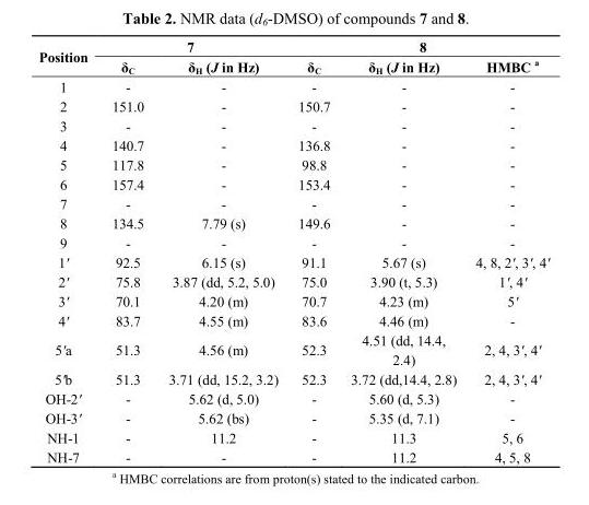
<table><thead><tr><td rowspan="2">Position</td><td colspan="2">7</td><td colspan="3">8</td></tr><tr><td>δ<sub>C</sub></td><td>δ<sub>H</sub> (J in Hz)</td><td>δ<sub>C</sub></td><td>δ<sub>H</sub> (J in Hz)</td><td>HMBC <sup>a</sup></td></tr></thead><tbody><tr><td>1</td><td>-</td><td>-</td><td>-</td><td>-</td><td>-</td></tr><tr><td>2</td><td>151.0</td><td>-</td><td>150.7</td><td>-</td><td>-</td></tr><tr><td>3</td><td>-</td><td>-</td><td>-</td><td>-</td><td>-</td></tr><tr><td>4</td><td>140.7</td><td>-</td><td>136.8</td><td>-</td><td>-</td></tr><tr><td>5</td><td>117.8</td><td>-</td><td>98.8</td><td>-</td><td>-</td></tr><tr><td>6</td><td>157.4</td><td>-</td><td>153.4</td><td>-</td><td>-</td></tr><tr><td>7</td><td>-</td><td>-</td><td>-</td><td>-</td><td>-</td></tr><tr><td>8</td><td>134.5</td><td>7.79 (s)</td><td>149.6</td><td>-</td><td>-</td></tr><tr><td>9</td><td>-</td><td>-</td><td>-</td><td>-</td><td>-</td></tr><tr><td>1′</td><td>92.5</td><td>6.15 (s)</td><td>91.1</td><td>5.67 (s)</td><td>4, 8, 2′, 3′, 4′</td></tr><tr><td>2′</td><td>75.8</td><td>3.87 (dd, 5.2, 5.0)</td><td>75.0</td><td>3.90 (t, 5.3)</td><td>1′, 4′</td></tr><tr><td>3′</td><td>70.1</td><td>4.20 (m)</td><td>70.7</td><td>4.23 (m)</td><td>5′</td></tr><tr><td>4′</td><td>83.7</td><td>4.55 (m)</td><td>83.6</td><td>4.46 (m)</td><td>-</td></tr><tr><td>5′a</td><td>51.3</td><td>4.56 (m)</td><td>52.3</td><td>4.51 (dd, 14.4, 2.4)</td><td>2, 4, 3′, 4′</td></tr><tr><td>5′b</td><td>51.3</td><td>3.71 (dd, 15.2, 3.2)</td><td>52.3</td><td>3.72 (dd,14.4, 2.8)</td><td>2, 4, 3′, 4′</td></tr><tr><td>OH-2′</td><td>-</td><td>5.62 (d, 5.0)</td><td>-</td><td>5.60 (d, 5.3)</td><td>-</td></tr><tr><td>OH-3′</td><td>-</td><td>5.62 (bs)</td><td>-</td><td>5.35 (d, 7.1)</td><td>-</td></tr><tr><td>NH-1</td><td>-</td><td>11.2</td><td>-</td><td>11.3</td><td>5, 6</td></tr><tr><td>NH-7</td><td>-</td><td>-</td><td>-</td><td>11.2</td><td>4, 5, 8</td></tr></tbody></table>